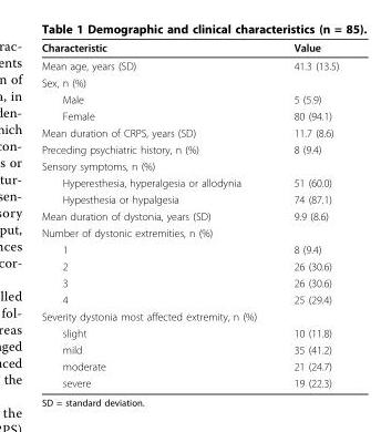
<table><thead><tr><td>Characteristic</td><td>Value</td></tr></thead><tbody><tr><td>Mean age, years (SD)</td><td>41.3 (13.5)</td></tr><tr><td colspan="2">Sex, n (%)</td></tr><tr><td>Male</td><td>5 (5.9)</td></tr><tr><td>Female</td><td>80 (94.1)</td></tr><tr><td>Mean duration of CRPS, years (SD)</td><td>11.7 (8.6)</td></tr><tr><td>Preceding psychiatric history, n (%)</td><td>8 (9.4)</td></tr><tr><td colspan="2">Sensory symptoms, n (%)</td></tr><tr><td>Hyperesthesia, hyperalgesia or allodynia</td><td>51 (60.0)</td></tr><tr><td>Hypesthesia or hypalgesia</td><td>74 (87.1)</td></tr><tr><td>Mean duration of dystonia, years (SD)</td><td>9.9 (8.6)</td></tr><tr><td colspan="2">Number of dystonic extremities, n (%)</td></tr><tr><td>1</td><td>8 (9.4)</td></tr><tr><td>2</td><td>26 (30.6)</td></tr><tr><td>3</td><td>26 (30.6)</td></tr><tr><td>4</td><td>25 (29.4)</td></tr><tr><td colspan="2">Severity dystonia most affected extremity, n (%)</td></tr><tr><td>slight</td><td>10 (11.8)</td></tr><tr><td>mild</td><td>35 (41.2)</td></tr><tr><td>moderate</td><td>21 (24.7)</td></tr><tr><td>severe</td><td>19 (22.3)</td></tr></tbody></table>